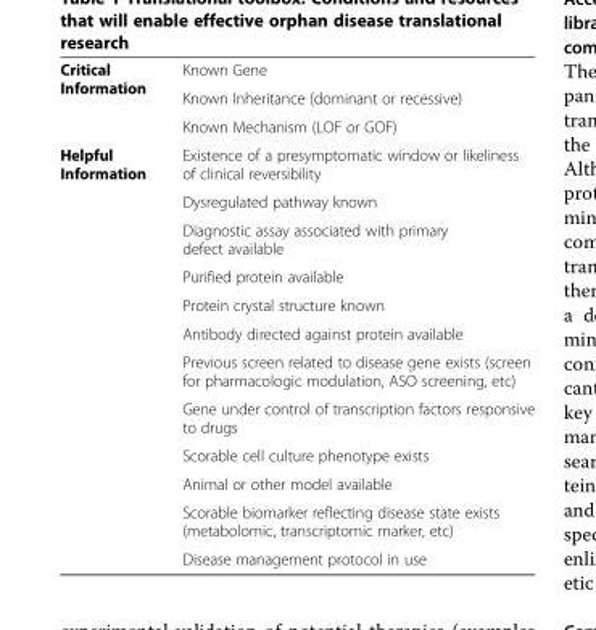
<table><tbody><tr><td rowspan="3">Critical Information</td><td>Known Gene</td></tr><tr><td>Known Inheritance (dominant or recessive)</td></tr><tr><td>Known Mechanism (LOF or GOF)</td></tr><tr><td rowspan="12">Helpful Information</td><td>Existence of a presymptomatic window or likeliness of clinical reversibility</td></tr><tr><td>Dysregulated pathway known</td></tr><tr><td>Diagnostic assay associated with primary defect available</td></tr><tr><td>Purified protein available</td></tr><tr><td>Protein crystal structure known</td></tr><tr><td>Antibody directed against protein available</td></tr><tr><td>Previous screen related to disease gene exists (screen for pharmacologic modulation, ASO screening, etc)</td></tr><tr><td>Gene under control of transcription factors responsive to drugs</td></tr><tr><td>Scorable cell culture phenotype exists</td></tr><tr><td>Animal or other model available</td></tr><tr><td>Scorable biomarker reflecting disease state exists (metabolomic, transcriptomic marker, etc)</td></tr><tr><td>Disease management protocol in use</td></tr></tbody></table>